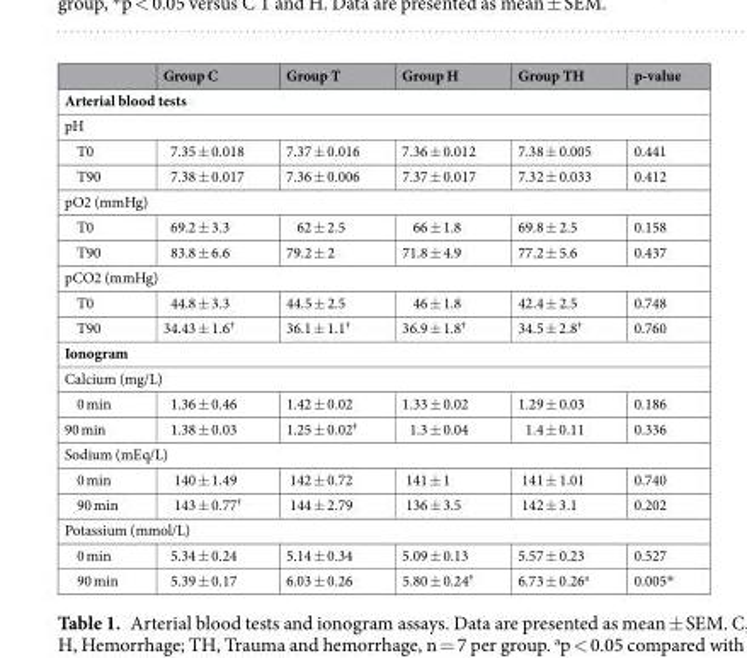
<table><thead><tr><td></td><td>Group C</td><td>Group T</td><td>Group H</td><td>Group TH</td><td>p-value</td></tr></thead><tbody><tr><td colspan="6">Arterial blood tests</td></tr><tr><td colspan="6">pH</td></tr><tr><td>T0</td><td>7.35 ± 0.018</td><td>7.37 ± 0.016</td><td>7.36 ± 0.012</td><td>7.38 ± 0.005</td><td>0.441</td></tr><tr><td>T90</td><td>7.38 ± 0.017</td><td>7.36 ± 0.006</td><td>7.37 ± 0.017</td><td>7.32 ± 0.033</td><td>0.412</td></tr><tr><td colspan="6">pO2 (mmHg)</td></tr><tr><td>T0</td><td>69.2 ± 3.3</td><td>62 ± 2.5</td><td>66 ± 1.8</td><td>69.8 ± 2.5</td><td>0.158</td></tr><tr><td>T90</td><td>83.8 ± 6.6</td><td>79.2 ± 2</td><td>71.8 ± 4.9</td><td>77.2 ± 5.6</td><td>0.437</td></tr><tr><td colspan="6">pCO2 (mmHg)</td></tr><tr><td>T0</td><td>44.8 ± 3.3</td><td>44.5 ± 2.5</td><td>46 ± 1.8</td><td>42.4 ± 2.5</td><td>0.748</td></tr><tr><td>T90</td><td>34.43 ± 1.6<sup>†</sup></td><td>36.1 ± 1.1<sup>†</sup></td><td>36.9 ± 1.8<sup>†</sup></td><td>34.5 ± 2.8<sup>†</sup></td><td>0.760</td></tr><tr><td colspan="6">Ionogram</td></tr><tr><td colspan="6">Calcium (mg/L)</td></tr><tr><td>0 min</td><td>1.36 ± 0.46</td><td>1.42 ± 0.02</td><td>1.33 ± 0.02</td><td>1.29 ± 0.03</td><td>0.186</td></tr><tr><td>90 min</td><td>1.38 ± 0.03</td><td>1.25 ± 0.02<sup>†</sup></td><td>1.3 ± 0.04</td><td>1.4 ± 0.11</td><td>0.336</td></tr><tr><td colspan="6">Sodium (mEq/L)</td></tr><tr><td>0 min</td><td>140 ± 1.49</td><td>142 ± 0.72</td><td>141 ± 1</td><td>141 ± 1.01</td><td>0.740</td></tr><tr><td>90 min</td><td>143 ± 0.77<sup>†</sup></td><td>144 ± 2.79</td><td>136 ± 3.5</td><td>142 ± 3.1</td><td>0.202</td></tr><tr><td colspan="6">Potassium (mmol/L)</td></tr><tr><td>0 min</td><td>5.34 ± 0.24</td><td>5.14 ± 0.34</td><td>5.09 ± 0.13</td><td>5.57 ± 0.23</td><td>0.527</td></tr><tr><td>90 min</td><td>5.39 ± 0.17</td><td>6.03 ± 0.26</td><td>5.80 ± 0.24<sup>†</sup></td><td>6.73 ± 0.26<sup>a</sup></td><td>0.005*</td></tr></tbody></table>